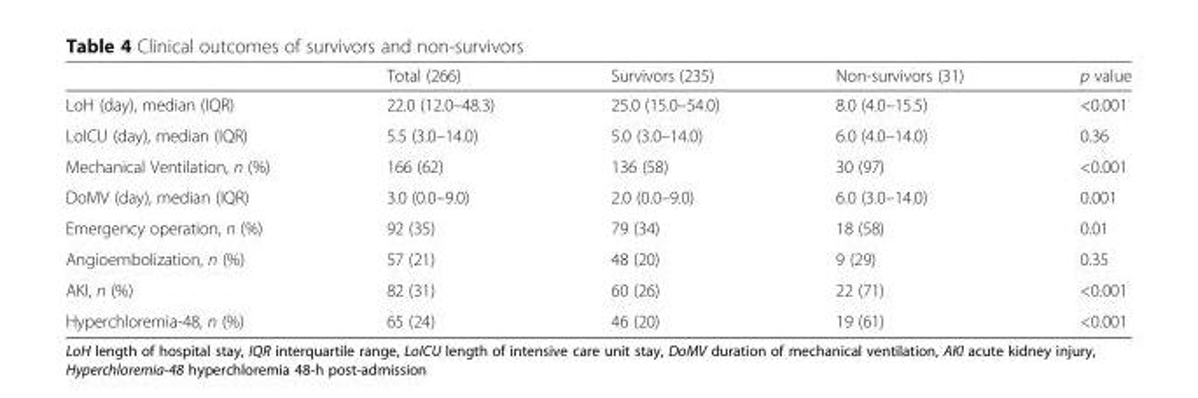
<table><thead><tr><td></td><td>Total (266)</td><td>Survivors (235)</td><td>Non-survivors (31)</td><td>p value</td></tr></thead><tbody><tr><td>LoH (day), median (IQR)</td><td>22.0 (12.0–48.3)</td><td>25.0 (15.0–54.0)</td><td>8.0 (4.0–15.5)</td><td>&lt;0.001</td></tr><tr><td>LoICU (day), median (IQR)</td><td>5.5 (3.0–14.0)</td><td>5.0 (3.0–14.0)</td><td>6.0 (4.0–14.0)</td><td>0.36</td></tr><tr><td>Mechanical Ventilation, n (%)</td><td>166 (62)</td><td>136 (58)</td><td>30 (97)</td><td>&lt;0.001</td></tr><tr><td>DoMV (day), median (IQR)</td><td>3.0 (0.0–9.0)</td><td>2.0 (0.0–9.0)</td><td>6.0 (3.0–14.0)</td><td>0.001</td></tr><tr><td>Emergency operation, n (%)</td><td>92 (35)</td><td>79 (34)</td><td>18 (58)</td><td>0.01</td></tr><tr><td>Angioembolization, n (%)</td><td>57 (21)</td><td>48 (20)</td><td>9 (29)</td><td>0.35</td></tr><tr><td>AKI, n (%)</td><td>82 (31)</td><td>60 (26)</td><td>22 (71)</td><td>&lt;0.001</td></tr><tr><td>Hyperchloremia-48, n (%)</td><td>65 (24)</td><td>46 (20)</td><td>19 (61)</td><td>&lt;0.001</td></tr></tbody></table>